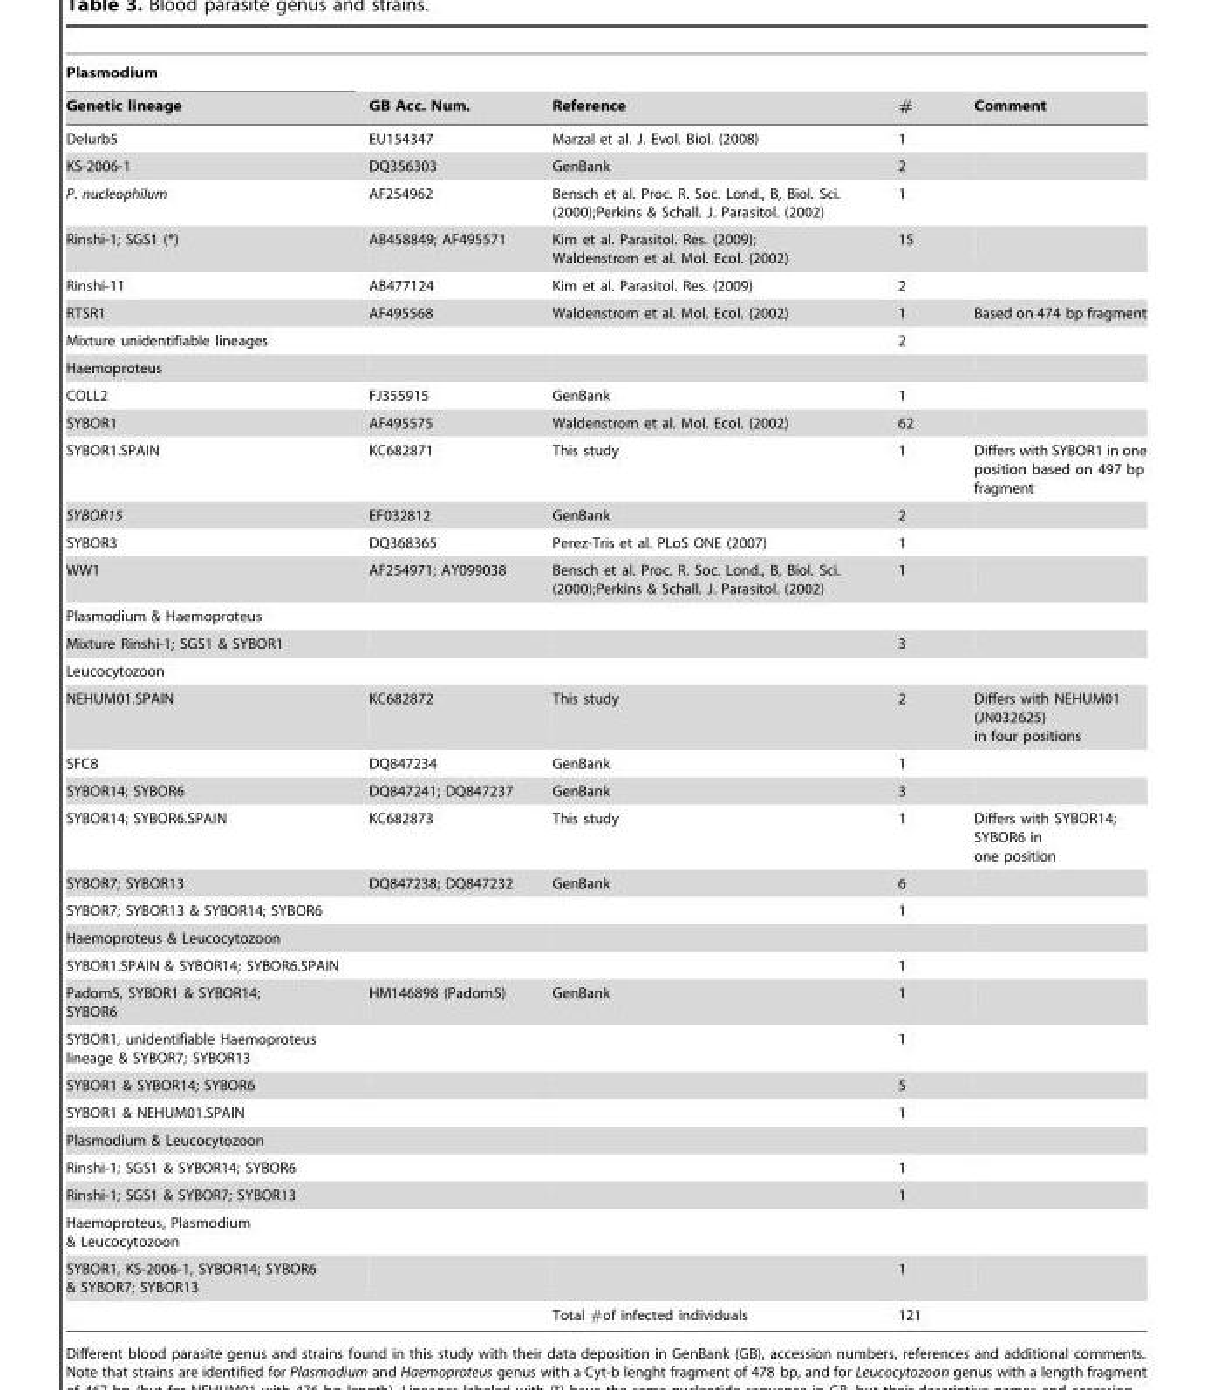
<table><thead><tr><td rowspan="2">Plasmodium Genetic lineage</td><td rowspan="2">GB Acc. Num.</td><td rowspan="2">Reference</td><td rowspan="2">#</td><td rowspan="2">Comment</td></tr><tr></tr></thead><tbody><tr><td>Delurb5</td><td>EU154347</td><td>Marzal et al. J. Evol. Biol. (2008)</td><td>1</td><td></td></tr><tr><td>KS-2006-1</td><td>DQ356303</td><td>GenBank</td><td>2</td><td></td></tr><tr><td>P. nucleophilum</td><td>AF254962</td><td>Bensch et al. Proc. R. Soc. Lond., B, Biol. Sci. (2000);Perkins &amp; Schall. J. Parasitol. (2002)</td><td>1</td><td></td></tr><tr><td>Rinshi-1; SGS1 (*)</td><td>AB458849; AF495571</td><td>Kim et al. Parasitol. Res. (2009); Waldenstrom et al. Mol. Ecol. (2002)</td><td>15</td><td></td></tr><tr><td>Rinshi-11</td><td>AB477124</td><td>Kim et al. Parasitol. Res. (2009)</td><td>2</td><td></td></tr><tr><td>RTSR1</td><td>AF495568</td><td>Waldenstrom et al. Mol. Ecol. (2002)</td><td>1</td><td>Based on 474 bp fragment</td></tr><tr><td>Mixture unidentifiable lineages</td><td></td><td></td><td>2</td><td></td></tr><tr><td colspan="5">Haemoproteus</td></tr><tr><td>COLL2</td><td>FJ355915</td><td>GenBank</td><td>1</td><td></td></tr><tr><td>SYBOR1</td><td>AF495575</td><td>Waldenstrom et al. Mol. Ecol. (2002)</td><td>62</td><td></td></tr><tr><td>SYBOR1.SPAIN</td><td>KC682871</td><td>This study</td><td>1</td><td>Differs with SYBOR1 in one position based on 497 bp fragment</td></tr><tr><td>SYBOR15</td><td>EF032812</td><td>GenBank</td><td>2</td><td></td></tr><tr><td>SYBOR3</td><td>DQ368365</td><td>Perez-Tris et al. PLoS ONE (2007)</td><td>1</td><td></td></tr><tr><td>WW1</td><td>AF254971; AY099038</td><td>Bensch et al. Proc. R. Soc. Lond., B, Biol. Sci. (2000);Perkins &amp; Schall. J. Parasitol. (2002)</td><td>1</td><td></td></tr><tr><td colspan="5">Plasmodium &amp; Haemoproteus</td></tr><tr><td>Mixture Rinshi-1; SGS1 &amp; SYBOR1</td><td></td><td></td><td>3</td><td></td></tr><tr><td colspan="5">Leucocytozoon</td></tr><tr><td>NEHUM01.SPAIN</td><td>KC682872</td><td>This study</td><td>2</td><td>Differs with NEHUM01 (JN032625) in four positions</td></tr><tr><td>SFC8</td><td>DQ847234</td><td>GenBank</td><td>1</td><td></td></tr><tr><td>SYBOR14; SYBOR6</td><td>DQ847241; DQ847237</td><td>GenBank</td><td>3</td><td></td></tr><tr><td>SYBOR14; SYBOR6.SPAIN</td><td>KC682873</td><td>This study</td><td>1</td><td>Differs with SYBOR14; SYBOR6 in one position</td></tr><tr><td>SYBOR7; SYBOR13</td><td>DQ847238; DQ847232</td><td>GenBank</td><td>6</td><td></td></tr><tr><td>SYBOR7; SYBOR13 &amp; SYBOR14; SYBOR6</td><td></td><td></td><td>1</td><td></td></tr><tr><td colspan="5">Haemoproteus &amp; Leucocytozoon</td></tr><tr><td>SYBOR1.SPAIN &amp; SYBOR14; SYBOR6.SPAIN</td><td></td><td></td><td>1</td><td></td></tr><tr><td>Padom5, SYBOR1 &amp; SYBOR14; SYBOR6</td><td>HM146898 (Padom5)</td><td>GenBank</td><td>1</td><td></td></tr><tr><td>SYBOR1, unidentifiable Haemoproteus lineage &amp; SYBOR7; SYBOR13</td><td></td><td></td><td>1</td><td></td></tr><tr><td>SYBOR1 &amp; SYBOR14; SYBOR6</td><td></td><td></td><td>5</td><td></td></tr><tr><td>SYBOR1 &amp; NEHUM01.SPAIN</td><td></td><td></td><td>1</td><td></td></tr><tr><td colspan="5">Plasmodium &amp; Leucocytozoon</td></tr><tr><td colspan="2">Rinshi-1; SGS1 &amp; SYBOR14; SYBOR6</td><td></td><td>1</td><td></td></tr><tr><td colspan="2">Rinshi-1; SGS1 &amp; SYBOR7; SYBOR13</td><td></td><td>1</td><td></td></tr><tr><td colspan="5">Haemoproteus, Plasmodium &amp; Leucocytozoon</td></tr><tr><td rowspan="2">SYBOR1, KS-2006-1, SYBOR14; SYBOR6 &amp; SYBOR7; SYBOR13</td><td></td><td></td><td>1</td><td></td></tr><tr><td></td><td>Total #of infected individuals</td><td>121</td><td></td></tr></tbody></table>